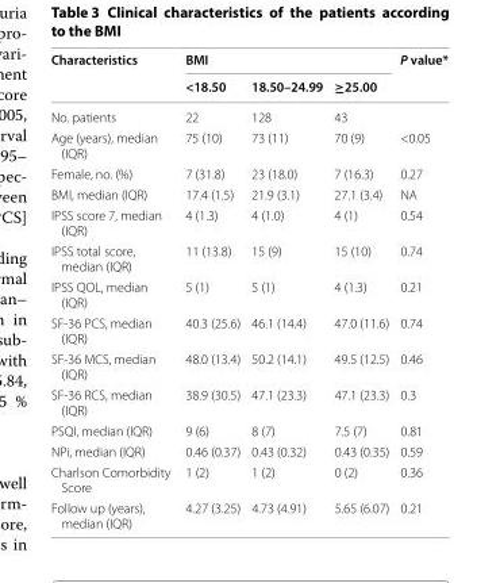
<table><thead><tr><td rowspan="2">Characteristics</td><td colspan="3">BMI</td><td rowspan="2">P value*</td></tr><tr><td>&lt;18.50</td><td>18.50–24.99</td><td>≥25.00</td></tr></thead><tbody><tr><td>No. patients</td><td>22</td><td>128</td><td>43</td><td></td></tr><tr><td>Age (years), median (IQR)</td><td>75 (10)</td><td>73 (11)</td><td>70 (9)</td><td>&lt;0.05</td></tr><tr><td>Female, no. (%)</td><td>7 (31.8)</td><td>23 (18.0)</td><td>7 (16.3)</td><td>0.27</td></tr><tr><td>BMI, median (IQR)</td><td>17.4 (1.5)</td><td>21.9 (3.1)</td><td>27.1 (3.4)</td><td>NA</td></tr><tr><td>IPSS score 7, median (IQR)</td><td>4 (1.3)</td><td>4 (1.0)</td><td>4 (1)</td><td>0.54</td></tr><tr><td>IPSS total score, median (IQR)</td><td>11 (13.8)</td><td>15 (9)</td><td>15 (10)</td><td>0.74</td></tr><tr><td>IPSS QOL, median (IQR)</td><td>5 (1)</td><td>5 (1)</td><td>4 (1.3)</td><td>0.21</td></tr><tr><td>SF-36 PCS, median (IQR)</td><td>40.3 (25.6)</td><td>46.1 (14.4)</td><td>47.0 (11.6)</td><td>0.74</td></tr><tr><td>SF-36 MCS, median (IQR)</td><td>48.0 (13.4)</td><td>50.2 (14.1)</td><td>49.5 (12.5)</td><td>0.46</td></tr><tr><td>SF-36 RCS, median (IQR)</td><td>38.9 (30.5)</td><td>47.1 (23.3)</td><td>47.1 (23.3)</td><td>0.3</td></tr><tr><td>PSQI, median (IQR)</td><td>9 (6)</td><td>8 (7)</td><td>7.5 (7)</td><td>0.81</td></tr><tr><td>NPi, median (IQR)</td><td>0.46 (0.37)</td><td>0.43 (0.32)</td><td>0.43 (0.35)</td><td>0.59</td></tr><tr><td>Charlson Comorbidity Score</td><td>1 (2)</td><td>1 (2)</td><td>0 (2)</td><td>0.36</td></tr><tr><td>Follow up (years), median (IQR)</td><td>4.27 (3.25)</td><td>4.73 (4.91)</td><td>5.65 (6.07)</td><td>0.21</td></tr></tbody></table>